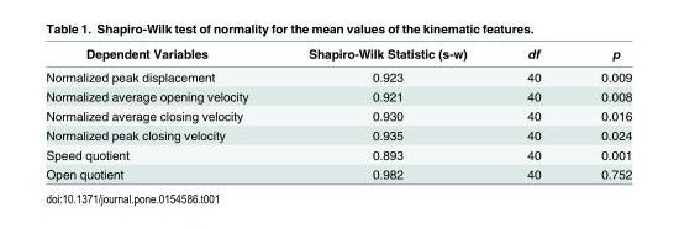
<table><thead><tr><td>Dependent Variables</td><td>Shapiro-Wilk Statistic (s-w)</td><td>df</td><td>p</td></tr></thead><tbody><tr><td>Normalized peak displacement</td><td>0.923</td><td>40</td><td>0.009</td></tr><tr><td>Normalized average opening velocity</td><td>0.921</td><td>40</td><td>0.008</td></tr><tr><td>Normalized average closing velocity</td><td>0.930</td><td>40</td><td>0.016</td></tr><tr><td>Normalized peak closing velocity</td><td>0.935</td><td>40</td><td>0.024</td></tr><tr><td>Speed quotient</td><td>0.893</td><td>40</td><td>0.001</td></tr><tr><td>Open quotient</td><td>0.982</td><td>40</td><td>0.752</td></tr></tbody></table>